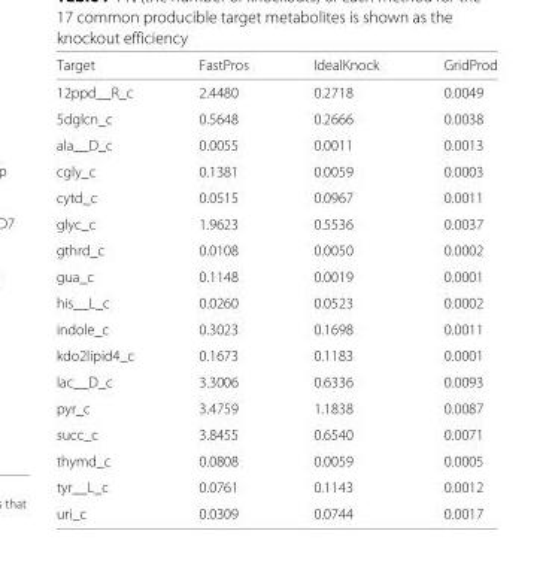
<table><thead><tr><td>Target</td><td>FastPros</td><td>IdealKnock</td><td>GridProd</td></tr></thead><tbody><tr><td>12ppd__R_c</td><td>2.4480</td><td>0.2718</td><td>0.0049</td></tr><tr><td>5dglcn_c</td><td>0.5648</td><td>0.2666</td><td>0.0038</td></tr><tr><td>ala__D_c</td><td>0.0055</td><td>0.0011</td><td>0.0013</td></tr><tr><td>cgly_c</td><td>0.1381</td><td>0.0059</td><td>0.0003</td></tr><tr><td>cytd_c</td><td>0.0515</td><td>0.0967</td><td>0.0011</td></tr><tr><td>glyc_c</td><td>1.9623</td><td>0.5536</td><td>0.0037</td></tr><tr><td>gthrd_c</td><td>0.0108</td><td>0.0050</td><td>0.0002</td></tr><tr><td>gua_c</td><td>0.1148</td><td>0.0019</td><td>0.0001</td></tr><tr><td>his__L_c</td><td>0.0260</td><td>0.0523</td><td>0.0002</td></tr><tr><td>indole_c</td><td>0.3023</td><td>0.1698</td><td>0.0011</td></tr><tr><td>kdo2lipid4_c</td><td>0.1673</td><td>0.1183</td><td>0.0001</td></tr><tr><td>lac__D_c</td><td>3.3006</td><td>0.6336</td><td>0.0093</td></tr><tr><td>pyr_c</td><td>3.4759</td><td>1.1838</td><td>0.0087</td></tr><tr><td>succ_c</td><td>3.8455</td><td>0.6540</td><td>0.0071</td></tr><tr><td>thymd_c</td><td>0.0808</td><td>0.0059</td><td>0.0005</td></tr><tr><td>tyr__L_c</td><td>0.0761</td><td>0.1143</td><td>0.0012</td></tr><tr><td>uri_c</td><td>0.0309</td><td>0.0744</td><td>0.0017</td></tr></tbody></table>